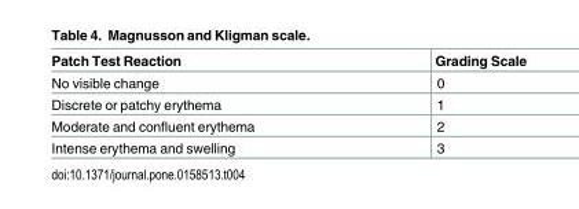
<table><thead><tr><td>Patch Test Reaction</td><td>Grading Scale</td></tr></thead><tbody><tr><td>No visible change</td><td>0</td></tr><tr><td>Discrete or patchy erythema</td><td>1</td></tr><tr><td>Moderate and confluent erythema</td><td>2</td></tr><tr><td>Intense erythema and swelling</td><td>3</td></tr></tbody></table>